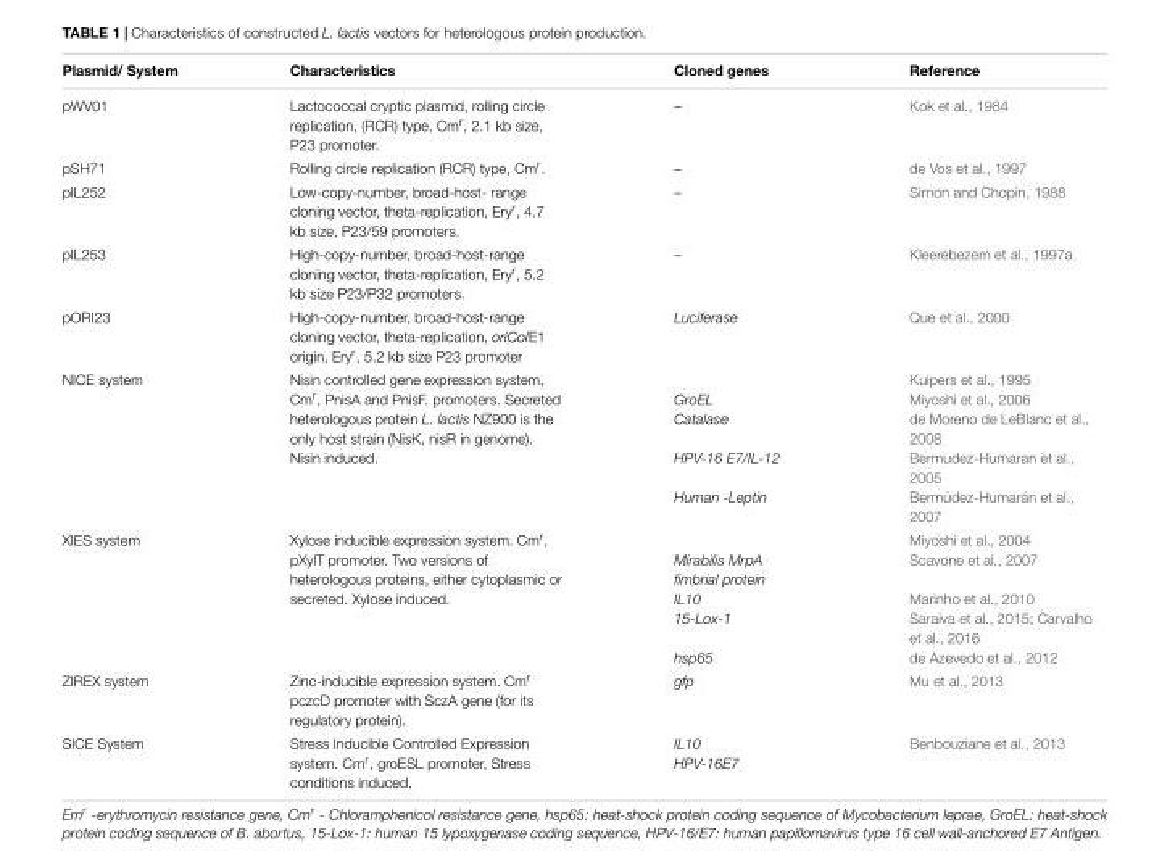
<table><thead><tr><td>Plasmid/ System</td><td>Characteristics</td><td>Cloned genes</td><td>Reference</td></tr></thead><tbody><tr><td>pWV01</td><td>Lactococcal cryptic plasmid, rolling circle replication, (RCR) type, Cm<sup>r</sup>, 2.1 kb size, P23 promoter.</td><td>–</td><td>Kok et al., 1984</td></tr><tr><td>pSH71</td><td>Rolling circle replication (RCR) type, Cm<sup>r</sup>.</td><td>–</td><td>de Vos et al., 1997</td></tr><tr><td>pIL252</td><td>Low-copy-number, broad-host- range cloning vector, theta-replication, Ery<sup>r</sup>, 4.7 kb size, P23/59 promoters.</td><td>–</td><td>Simon and Chopin, 1988</td></tr><tr><td>pIL253</td><td>High-copy-number, broad-host-range cloning vector, theta-replication, Ery<sup>r</sup>, 5.2 kb size P23/P32 promoters.</td><td>–</td><td>Kleerebezem et al., 1997a</td></tr><tr><td>pORI23</td><td>High-copy-number, broad-host-range cloning vector, theta-replication, oriColE1 origin, Ery<sup>r</sup>, 5.2 kb size P23 promoter</td><td>Luciferase</td><td>Que et al., 2000</td></tr><tr><td>NICE system</td><td>Nisin controlled gene expression system, Cm<sup>r</sup>, PnisA and PnisF. promoters. Secreted heterologous protein L. lactis NZ900 is the only host strain (NisK, nisR in genome). Nisin induced.</td><td>GroEL Catalase HPV-16 E7/IL-12 Human -Leptin</td><td>Kuipers et al., 1995 Miyoshi et al., 2006 de Moreno de LeBlanc et al., 2008 Bermudez-Humaran et al., 2005 Bermúdez-Humarán et al., 2007</td></tr><tr><td>XIES system</td><td>Xylose inducible expression system. Cm<sup>r</sup>, pXylT promoter. Two versions of heterologous proteins, either cytoplasmic or secreted. Xylose induced.</td><td>Mirabilis MrpA fimbrial protein IL10 15-Lox-1 hsp65</td><td>Miyoshi et al., 2004 Scavone et al., 2007 Marinho et al., 2010 Saraiva et al., 2015; Carvalho et al., 2016 de Azevedo et al., 2012</td></tr><tr><td>ZIREX system</td><td>Zinc-inducible expression system. Cm<sup>r</sup> pczcD promoter with SczA gene (for its regulatory protein).</td><td>gfp</td><td>Mu et al., 2013</td></tr><tr><td>SICE System</td><td>Stress Inducible Controlled Expression system. Cm<sup>r</sup>, groESL promoter, Stress conditions induced.</td><td>IL10 HPV-16E7</td><td>Benbouziane et al., 2013</td></tr></tbody></table>